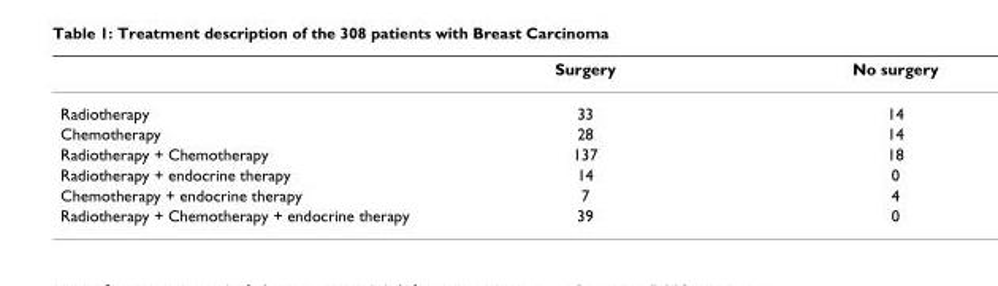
<table><thead><tr><td></td><td>Surgery</td><td>No surgery</td></tr></thead><tbody><tr><td>Radiotherapy</td><td>33</td><td>14</td></tr><tr><td>Chemotherapy</td><td>28</td><td>14</td></tr><tr><td>Radiotherapy + Chemotherapy</td><td>137</td><td>18</td></tr><tr><td>Radiotherapy + endocrine therapy</td><td>14</td><td>0</td></tr><tr><td>Chemotherapy + endocrine therapy</td><td>7</td><td>4</td></tr><tr><td>Radiotherapy + Chemotherapy + endocrine therapy</td><td>39</td><td>0</td></tr></tbody></table>